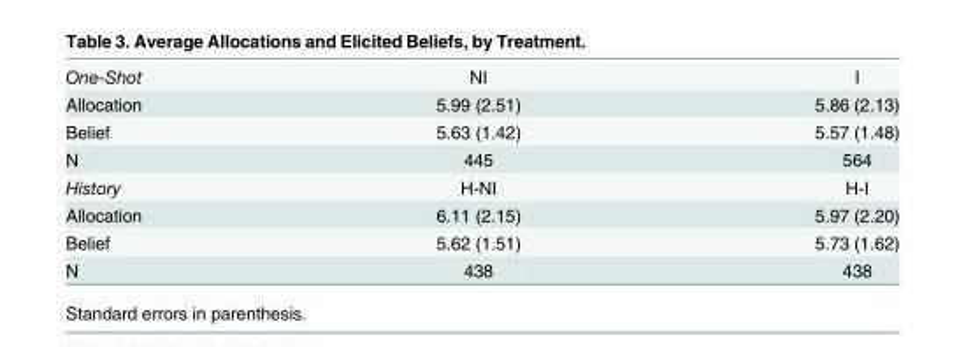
<table><tbody><tr><td>One-Shot</td><td>NI</td><td>I</td></tr><tr><td>Allocation</td><td>5.99 (2.51)</td><td>5.86 (2.13)</td></tr><tr><td>Belief</td><td>5.63 (1.42)</td><td>5.57 (1.48)</td></tr><tr><td>N</td><td>445</td><td>564</td></tr><tr><td>History</td><td>H-NI</td><td>H-I</td></tr><tr><td>Allocation</td><td>6.11 (2.15)</td><td>5.97 (2.20)</td></tr><tr><td>Belief</td><td>5.62 (1.51)</td><td>5.73 (1.62)</td></tr><tr><td>N</td><td>438</td><td>438</td></tr></tbody></table>